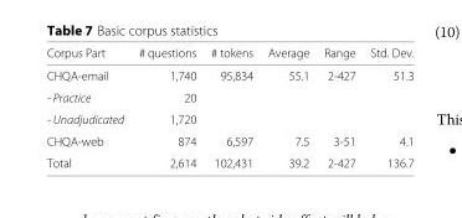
<table><thead><tr><td>Corpus Part</td><td># questions</td><td># tokens</td><td>Average</td><td>Range</td><td>Std. Dev.</td></tr></thead><tbody><tr><td>CHQA-email</td><td>1,740</td><td>95,834</td><td>55.1</td><td>2-427</td><td>51.3</td></tr><tr><td>- Practice</td><td>20</td><td></td><td></td><td></td><td></td></tr><tr><td>- Unadjudicated</td><td>1,720</td><td></td><td></td><td></td><td></td></tr><tr><td>CHQA-web</td><td>874</td><td>6,597</td><td>7.5</td><td>3-51</td><td>4.1</td></tr><tr><td>Total</td><td>2,614</td><td>102,431</td><td>39.2</td><td>2-427</td><td>136.7</td></tr></tbody></table>